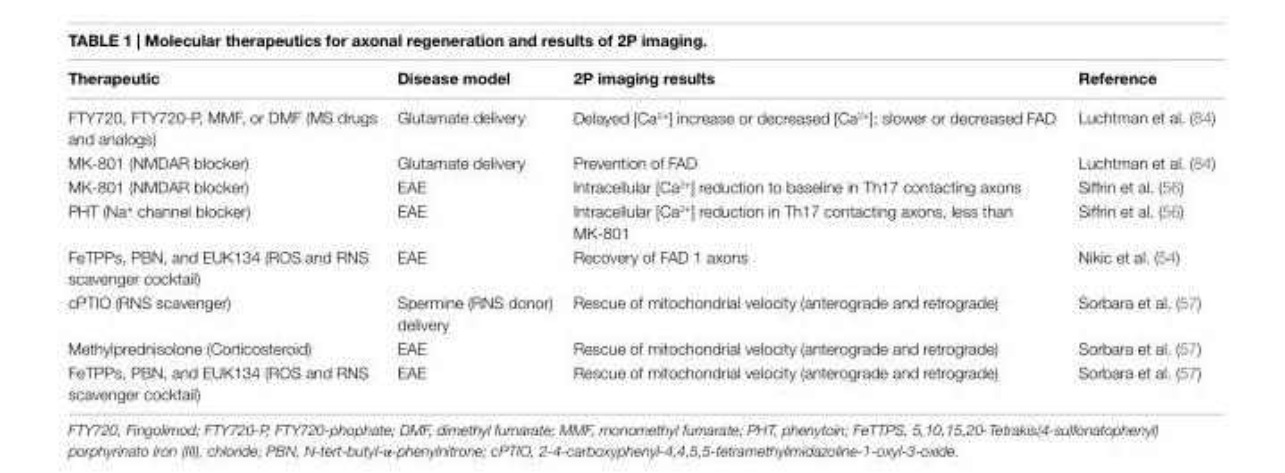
<table><thead><tr><td>Therapeutic</td><td>Disease model</td><td>2P imaging results</td><td>Reference</td></tr></thead><tbody><tr><td>FTY720, FTY720-P, MMF, or DMF (MS drugs and analogs)</td><td>Glutamate delivery</td><td>Delayed [Ca<sup>2+</sup>] increase or decreased [Ca<sup>2+</sup>]; slower or decreased FAD</td><td>Luchtman et al. (84)</td></tr><tr><td>MK-801 (NMDAR blocker)</td><td>Glutamate delivery</td><td>Prevention of FAD</td><td>Luchtman et al. (84)</td></tr><tr><td>MK-801 (NMDAR blocker)</td><td>EAE</td><td>Intracellular [Ca<sup>2+</sup>] reduction to baseline in Th17 contacting axons</td><td>Siffrin et al. (56)</td></tr><tr><td>PHT (Na<sup>+</sup> channel blocker)</td><td>EAE</td><td>Intracellular [Ca<sup>2+</sup>] reduction in Th17 contacting axons, less than MK-801</td><td>Siffrin et al. (56)</td></tr><tr><td>FeTPPs, PBN, and EUK134 (ROS and RNS scavenger cocktail)</td><td>EAE</td><td>Recovery of FAD 1 axons</td><td>Nikic et al. (54)</td></tr><tr><td>cPTIO (RNS scavenger)</td><td>Spermine (RNS donor) delivery</td><td>Rescue of mitochondrial velocity (anterograde and retrograde)</td><td>Sorbara et al. (57)</td></tr><tr><td>Methylprednisolone (Corticosteroid)</td><td>EAE</td><td>Rescue of mitochondrial velocity (anterograde and retrograde)</td><td>Sorbara et al. (57)</td></tr><tr><td>FeTPPs, PBN, and EUK134 (ROS and RNS scavenger cocktail)</td><td>EAE</td><td>Rescue of mitochondrial velocity (anterograde and retrograde)</td><td>Sorbara et al. (57)</td></tr></tbody></table>